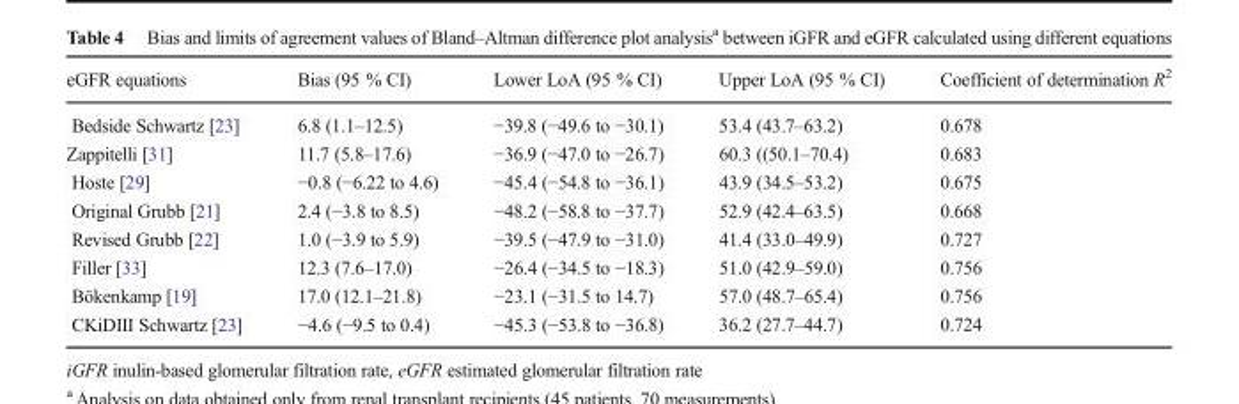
<table><thead><tr><td>eGFR equations</td><td>Bias (95 % CI)</td><td>Lower LoA (95 % CI)</td><td>Upper LoA (95 % CI)</td><td>Coefficient of determination R<sup>2</sup></td></tr></thead><tbody><tr><td>Bedside Schwartz [23]</td><td>6.8 (1.1–12.5)</td><td>−39.8 (−49.6 to −30.1)</td><td>53.4 (43.7–63.2)</td><td>0.678</td></tr><tr><td>Zappitelli [31]</td><td>11.7 (5.8–17.6)</td><td>−36.9 (−47.0 to −26.7)</td><td>60.3 ((50.1–70.4)</td><td>0.683</td></tr><tr><td>Hoste [29]</td><td>−0.8 (−6.22 to 4.6)</td><td>−45.4 (−54.8 to −36.1)</td><td>43.9 (34.5–53.2)</td><td>0.675</td></tr><tr><td>Original Grubb [21]</td><td>2.4 (−3.8 to 8.5)</td><td>−48.2 (−58.8 to −37.7)</td><td>52.9 (42.4–63.5)</td><td>0.668</td></tr><tr><td>Revised Grubb [22]</td><td>1.0 (−3.9 to 5.9)</td><td>−39.5 (−47.9 to −31.0)</td><td>41.4 (33.0–49.9)</td><td>0.727</td></tr><tr><td>Filler [33]</td><td>12.3 (7.6–17.0)</td><td>−26.4 (−34.5 to −18.3)</td><td>51.0 (42.9–59.0)</td><td>0.756</td></tr><tr><td>Bökenkamp [19]</td><td>17.0 (12.1–21.8)</td><td>−23.1 (−31.5 to 14.7)</td><td>57.0 (48.7–65.4)</td><td>0.756</td></tr><tr><td>CKiDIII Schwartz [23]</td><td>−4.6 (−9.5 to 0.4)</td><td>−45.3 (−53.8 to −36.8)</td><td>36.2 (27.7–44.7)</td><td>0.724</td></tr></tbody></table>